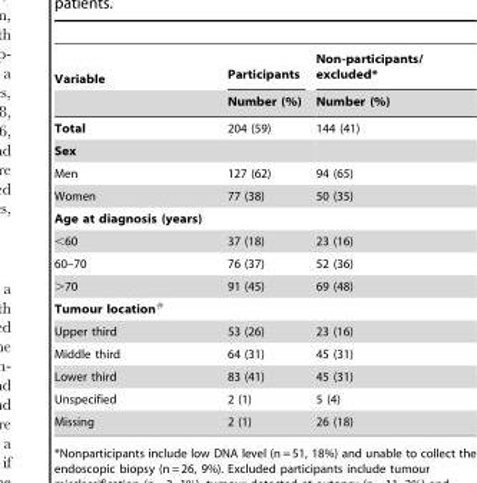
<table><thead><tr><td rowspan="2">Variable</td><td rowspan="2">Participants Number (%)</td><td rowspan="2">Non-participants/ excluded* Number (%)</td></tr><tr></tr></thead><tbody><tr><td>Total</td><td>204 (59)</td><td>144 (41)</td></tr><tr><td colspan="3">Sex</td></tr><tr><td>Men</td><td>127 (62)</td><td>94 (65)</td></tr><tr><td>Women</td><td>77 (38)</td><td>50 (35)</td></tr><tr><td colspan="3">Age at diagnosis (years)</td></tr><tr><td>&lt;60</td><td>37 (18)</td><td>23 (16)</td></tr><tr><td>60–70</td><td>76 (37)</td><td>52 (36)</td></tr><tr><td>&gt;70</td><td>91 (45)</td><td>69 (48)</td></tr><tr><td colspan="3">Tumour location<sup>#</sup></td></tr><tr><td>Upper third</td><td>53 (26)</td><td>23 (16)</td></tr><tr><td>Middle third</td><td>64 (31)</td><td>45 (31)</td></tr><tr><td>Lower third</td><td>83 (41)</td><td>45 (31)</td></tr><tr><td>Unspecified</td><td>2 (1)</td><td>5 (4)</td></tr><tr><td>Missing</td><td>2 (1)</td><td>26 (18)</td></tr></tbody></table>